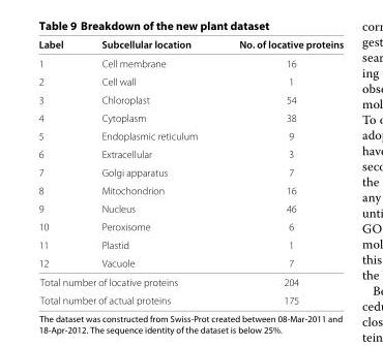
<table><thead><tr><td>Label</td><td>Subcellular location</td><td>No. of locative proteins</td></tr></thead><tbody><tr><td>1</td><td>Cell membrane</td><td>16</td></tr><tr><td>2</td><td>Cell wall</td><td>1</td></tr><tr><td>3</td><td>Chloroplast</td><td>54</td></tr><tr><td>4</td><td>Cytoplasm</td><td>38</td></tr><tr><td>5</td><td>Endoplasmic reticulum</td><td>9</td></tr><tr><td>6</td><td>Extracellular</td><td>3</td></tr><tr><td>7</td><td>Golgi apparatus</td><td>7</td></tr><tr><td>8</td><td>Mitochondrion</td><td>16</td></tr><tr><td>9</td><td>Nucleus</td><td>46</td></tr><tr><td>10</td><td>Peroxisome</td><td>6</td></tr><tr><td>11</td><td>Plastid</td><td>1</td></tr><tr><td>12</td><td>Vacuole</td><td>7</td></tr><tr><td colspan="2">Total number of locative proteins</td><td>204</td></tr><tr><td colspan="2">Total number of actual proteins</td><td>175</td></tr></tbody></table>